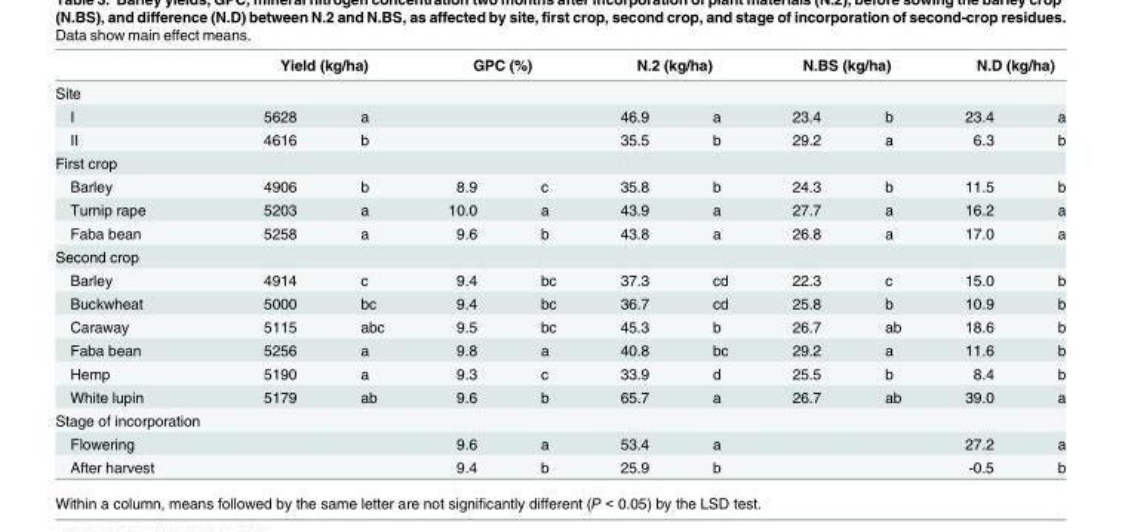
<table><thead><tr><td rowspan="2">Site</td><td colspan="2">Yield (kg/ha)</td><td colspan="2">GPC (%)</td><td colspan="2">N.2 (kg/ha)</td><td colspan="2">N.BS (kg/ha)</td><td colspan="2">N.D (kg/ha)</td></tr><tr><td></td><td></td><td></td><td></td><td></td><td></td><td></td><td></td><td></td><td></td></tr></thead><tbody><tr><td>I</td><td>5628</td><td>a</td><td></td><td></td><td>46.9</td><td>a</td><td>23.4</td><td>b</td><td>23.4</td><td>a</td></tr><tr><td>II</td><td>4616</td><td>b</td><td></td><td></td><td>35.5</td><td>b</td><td>29.2</td><td>a</td><td>6.3</td><td>b</td></tr><tr><td colspan="11">First crop</td></tr><tr><td>Barley</td><td>4906</td><td>b</td><td>8.9</td><td>c</td><td>35.8</td><td>b</td><td>24.3</td><td>b</td><td>11.5</td><td>b</td></tr><tr><td>Turnip rape</td><td>5203</td><td>a</td><td>10.0</td><td>a</td><td>43.9</td><td>a</td><td>27.7</td><td>a</td><td>16.2</td><td>a</td></tr><tr><td>Faba bean</td><td>5258</td><td>a</td><td>9.6</td><td>b</td><td>43.8</td><td>a</td><td>26.8</td><td>a</td><td>17.0</td><td>a</td></tr><tr><td colspan="11">Second crop</td></tr><tr><td>Barley</td><td>4914</td><td>c</td><td>9.4</td><td>bc</td><td>37.3</td><td>cd</td><td>22.3</td><td>c</td><td>15.0</td><td>b</td></tr><tr><td>Buckwheat</td><td>5000</td><td>bc</td><td>9.4</td><td>bc</td><td>36.7</td><td>cd</td><td>25.8</td><td>b</td><td>10.9</td><td>b</td></tr><tr><td>Caraway</td><td>5115</td><td>abc</td><td>9.5</td><td>bc</td><td>45.3</td><td>b</td><td>26.7</td><td>ab</td><td>18.6</td><td>b</td></tr><tr><td>Faba bean</td><td>5256</td><td>a</td><td>9.8</td><td>a</td><td>40.8</td><td>bc</td><td>29.2</td><td>a</td><td>11.6</td><td>b</td></tr><tr><td>Hemp</td><td>5190</td><td>a</td><td>9.3</td><td>c</td><td>33.9</td><td>d</td><td>25.5</td><td>b</td><td>8.4</td><td>b</td></tr><tr><td>White lupin</td><td>5179</td><td>ab</td><td>9.6</td><td>b</td><td>65.7</td><td>a</td><td>26.7</td><td>ab</td><td>39.0</td><td>a</td></tr><tr><td colspan="11">Stage of incorporation</td></tr><tr><td>Flowering</td><td></td><td></td><td>9.6</td><td>a</td><td>53.4</td><td>a</td><td></td><td></td><td>27.2</td><td>a</td></tr><tr><td>After harvest</td><td></td><td></td><td>9.4</td><td>b</td><td>25.9</td><td>b</td><td></td><td></td><td>-0.5</td><td>b</td></tr></tbody></table>